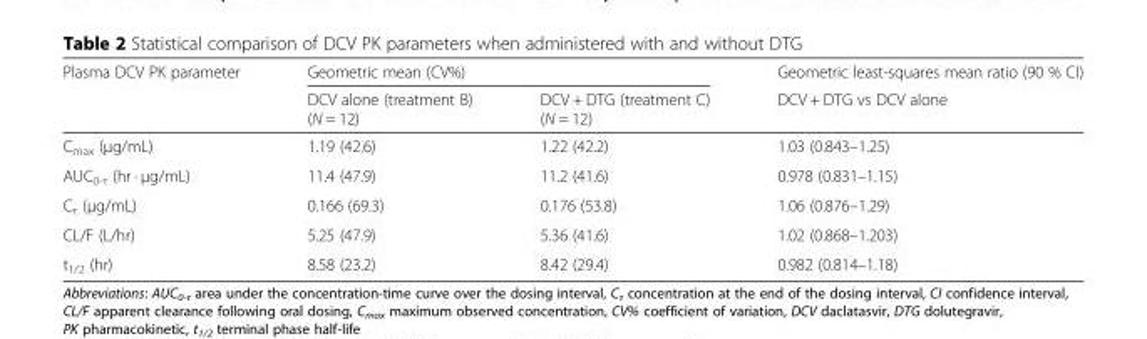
<table><thead><tr><td rowspan="2">Plasma DCV PK parameter</td><td colspan="2">Geometric mean (CV%)</td><td rowspan="2">Geometric least-squares mean ratio (90 % CI) DCV + DTG vs DCV alone</td></tr><tr><td>DCV alone (treatment B) (N = 12)</td><td>DCV + DTG (treatment C) (N = 12)</td></tr></thead><tbody><tr><td>C<sub>max</sub> (μg/mL)</td><td>1.19 (42.6)</td><td>1.22 (42.2)</td><td>1.03 (0.843–1.25)</td></tr><tr><td>AUC<sub>0-τ</sub> (hr · μg/mL)</td><td>11.4 (47.9)</td><td>11.2 (41.6)</td><td>0.978 (0.831–1.15)</td></tr><tr><td>C<sub>τ</sub> (μg/mL)</td><td>0.166 (69.3)</td><td>0.176 (53.8)</td><td>1.06 (0.876–1.29)</td></tr><tr><td>CL/F (L/hr)</td><td>5.25 (47.9)</td><td>5.36 (41.6)</td><td>1.02 (0.868–1.203)</td></tr><tr><td>t<sub>1/2</sub> (hr)</td><td>8.58 (23.2)</td><td>8.42 (29.4)</td><td>0.982 (0.814–1.18)</td></tr></tbody></table>